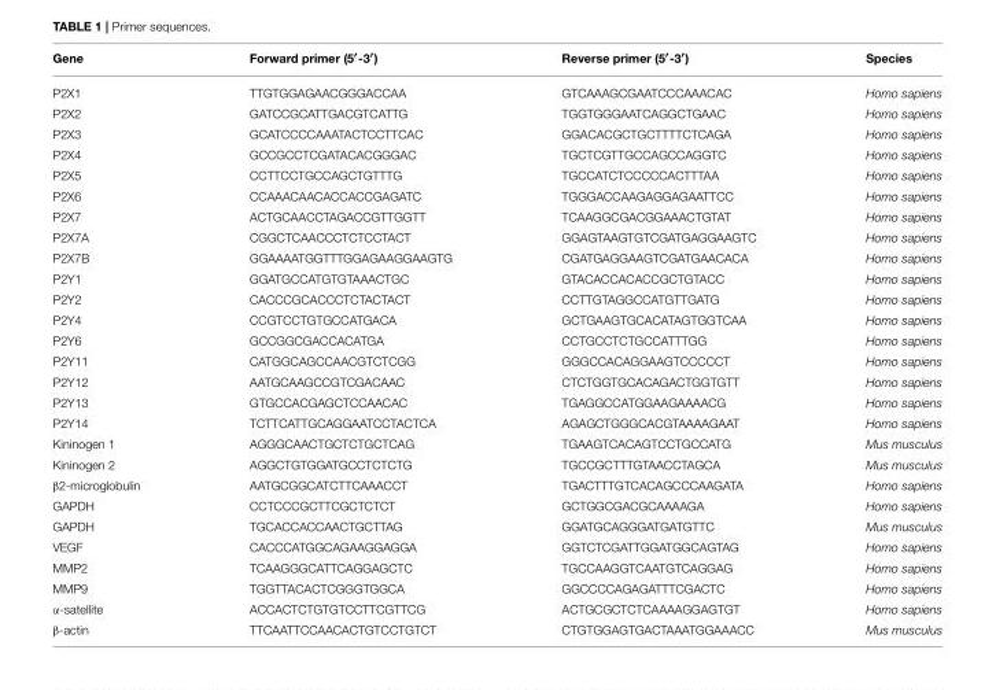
<table><thead><tr><td>Gene</td><td>Forward primer (5′-3′)</td><td>Reverse primer (5′-3′)</td><td>Species</td></tr></thead><tbody><tr><td>P2X1</td><td>TTGTGGAGAACGGGACCAA</td><td>GTCAAAGCGAATCCCAAACAC</td><td>Homo sapiens</td></tr><tr><td>P2X2</td><td>GATCCGCATTGACGTCATTG</td><td>TGGTGGGAATCAGGCTGAAC</td><td>Homo sapiens</td></tr><tr><td>P2X3</td><td>GCATCCCCAAATACTCCTTCAC</td><td>GGACACGCTGCTTTTCTCAGA</td><td>Homo sapiens</td></tr><tr><td>P2X4</td><td>GCCGCCTCGATACACGGGAC</td><td>TGCTCGTTGCCAGCCAGGTC</td><td>Homo sapiens</td></tr><tr><td>P2X5</td><td>CCTTCCTGCCAGCTGTTTG</td><td>TGCCATCTCCCCCACTTTAA</td><td>Homo sapiens</td></tr><tr><td>P2X6</td><td>CCAAACAACACCACCGAGATC</td><td>TGGGACCAAGAGGAGAATTCC</td><td>Homo sapiens</td></tr><tr><td>P2X7</td><td>ACTGCAACCTAGACCGTTGGTT</td><td>TCAAGGCGACGGAAACTGTAT</td><td>Homo sapiens</td></tr><tr><td>P2X7A</td><td>CGGCTCAACCCTCTCCTACT</td><td>GGAGTAAGTGTCGATGAGGAAGTC</td><td>Homo sapiens</td></tr><tr><td>P2X7B</td><td>GGAAAATGGTTTGGAGAAGGAAGTG</td><td>CGATGAGGAAGTCGATGAACACA</td><td>Homo sapiens</td></tr><tr><td>P2Y1</td><td>GGATGCCATGTGTAAACTGC</td><td>GTACACCACACCGCTGTACC</td><td>Homo sapiens</td></tr><tr><td>P2Y2</td><td>CACCCGCACCCTCTACTACT</td><td>CCTTGTAGGCCATGTTGATG</td><td>Homo sapiens</td></tr><tr><td>P2Y4</td><td>CCGTCCTGTGCCATGACA</td><td>GCTGAAGTGCACATAGTGGTCAA</td><td>Homo sapiens</td></tr><tr><td>P2Y6</td><td>GCCGGCGACCACATGA</td><td>CCTGCCTCTGCCATTTGG</td><td>Homo sapiens</td></tr><tr><td>P2Y11</td><td>CATGGCAGCCAACGTCTCGG</td><td>GGGCCACAGGAAGTCCCCCT</td><td>Homo sapiens</td></tr><tr><td>P2Y12</td><td>AATGCAAGCCGTCGACAAC</td><td>CTCTGGTGCACAGACTGGTGTT</td><td>Homo sapiens</td></tr><tr><td>P2Y13</td><td>GTGCCACGAGCTCCAACAC</td><td>TGAGGCCATGGAAGAAAACG</td><td>Homo sapiens</td></tr><tr><td>P2Y14</td><td>TCTTCATTGCAGGAATCCTACTCA</td><td>AGAGCTGGGCACGTAAAAGAAT</td><td>Homo sapiens</td></tr><tr><td>Kininogen 1</td><td>AGGGCAACTGCTCTGCTCAG</td><td>TGAAGTCACAGTCCTGCCATG</td><td>Mus musculus</td></tr><tr><td>Kininogen 2</td><td>AGGCTGTGGATGCCTCTCTG</td><td>TGCCGCTTTGTAACCTAGCA</td><td>Mus musculus</td></tr><tr><td>β2-microglobulin</td><td>AATGCGGCATCTTCAAACCT</td><td>TGACTTTGTCACAGCCCAAGATA</td><td>Homo sapiens</td></tr><tr><td>GAPDH</td><td>CCTCCCGCTTCGCTCTCT</td><td>GCTGGCGACGCAAAAGA</td><td>Homo sapiens</td></tr><tr><td>GAPDH</td><td>TGCACCACCAACTGCTTAG</td><td>GGATGCAGGGATGATGTTC</td><td>Mus musculus</td></tr><tr><td>VEGF</td><td>CACCCATGGCAGAAGGAGGA</td><td>GGTCTCGATTGGATGGCAGTAG</td><td>Homo sapiens</td></tr><tr><td>MMP2</td><td>TCAAGGGCATTCAGGAGCTC</td><td>TGCCAAGGTCAATGTCAGGAG</td><td>Homo sapiens</td></tr><tr><td>MMP9</td><td>TGGTTACACTCGGGTGGCA</td><td>GGCCCCAGAGATTTCGACTC</td><td>Homo sapiens</td></tr><tr><td>α-satellite</td><td>ACCACTCTGTGTCCTTCGTTCG</td><td>ACTGCGCTCTCAAAAGGAGTGT</td><td>Homo sapiens</td></tr><tr><td>β-actin</td><td>TTCAATTCCAACACTGTCCTGTCT</td><td>CTGTGGAGTGACTAAATGGAAACC</td><td>Mus musculus</td></tr></tbody></table>